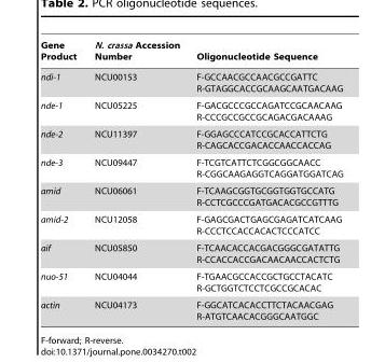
<table><thead><tr><td>Gene Product</td><td>N. crassa Accession Number</td><td>Oligonucleotide Sequence</td></tr></thead><tbody><tr><td>ndi-1</td><td>NCU00153</td><td>F-GCCAACGCCAACGCCGATTC R-GTAGGCACCGCAAGCAATGACAAG</td></tr><tr><td>nde-1</td><td>NCU05225</td><td>F-GACGCCCGCCAGATCCGCAACAAG R-CCCGCCGCCGCAGACGACAAAG</td></tr><tr><td>nde-2</td><td>NCU11397</td><td>F-GGAGCCCATCCGCACCATTCTG R-CAGCACCGACACCAACCACCAG</td></tr><tr><td>nde-3</td><td>NCU09447</td><td>F-TCGTCATTCTCGGCGGCAACC R-CGGCAAGAGGTCAGGATGGATCAG</td></tr><tr><td>amid</td><td>NCU06061</td><td>F-TCAAGCGGTGCGGTGGTGCCATG R-CCTCGCCCGATGACACGCCGTTTG</td></tr><tr><td>amid-2</td><td>NCU12058</td><td>F-GAGCGACTGAGCGAGATCATCAAG R-CCCTCCACCACACTCCCATCC</td></tr><tr><td>aif</td><td>NCU05850</td><td>F-TCAACACCACGACGGGCGATATTG R-CCACCACCGACAACAACCACTCTG</td></tr><tr><td>nuo-51</td><td>NCU04044</td><td>F-TGAACGCCACCGCTGCCTACATC R-GCTGGTCTCCTCGCCGCACAC</td></tr><tr><td>actin</td><td>NCU04173</td><td>F-GGCATCACACCTTCTACAACGAG R-ATGTCAACACGGGCAATGGC</td></tr></tbody></table>